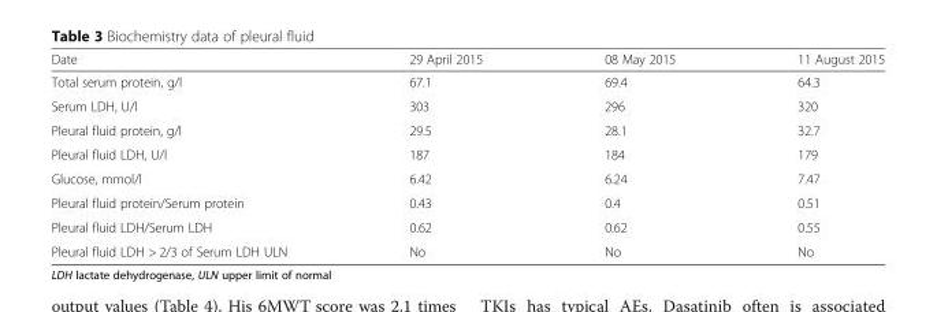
<table><thead><tr><td>Date</td><td>29 April 2015</td><td>08 May 2015</td><td>11 August 2015</td></tr></thead><tbody><tr><td>Total serum protein, g/l</td><td>67.1</td><td>69.4</td><td>64.3</td></tr><tr><td>Serum LDH, U/l</td><td>303</td><td>296</td><td>320</td></tr><tr><td>Pleural fluid protein, g/l</td><td>29.5</td><td>28.1</td><td>32.7</td></tr><tr><td>Pleural fluid LDH, U/l</td><td>187</td><td>184</td><td>179</td></tr><tr><td>Glucose, mmol/l</td><td>6.42</td><td>6.24</td><td>7.47</td></tr><tr><td>Pleural fluid protein/Serum protein</td><td>0.43</td><td>0.4</td><td>0.51</td></tr><tr><td>Pleural fluid LDH/Serum LDH</td><td>0.62</td><td>0.62</td><td>0.55</td></tr><tr><td>Pleural fluid LDH &gt; 2/3 of Serum LDH ULN</td><td>No</td><td>No</td><td>No</td></tr></tbody></table>